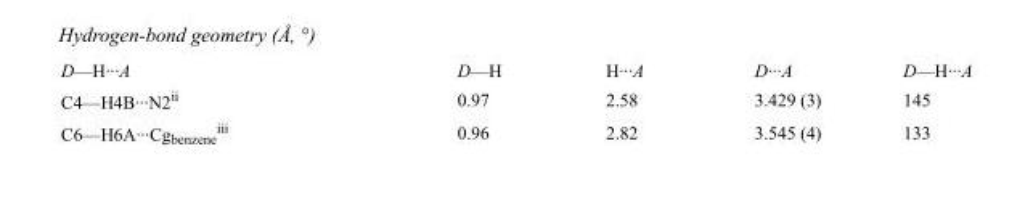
<table><tbody><tr><td>D—H···A</td><td>D—H</td><td>H···A</td><td>D···A</td><td>D—H···A</td></tr><tr><td>C4—H4B···N2<sup>ii</sup></td><td>0.97</td><td>2.58</td><td>3.429 (3)</td><td>145</td></tr><tr><td>C6—H6A···Cg<sub>benzene</sub> <sup>iii</sup></td><td>0.96</td><td>2.82</td><td>3.545 (4)</td><td>133</td></tr></tbody></table>